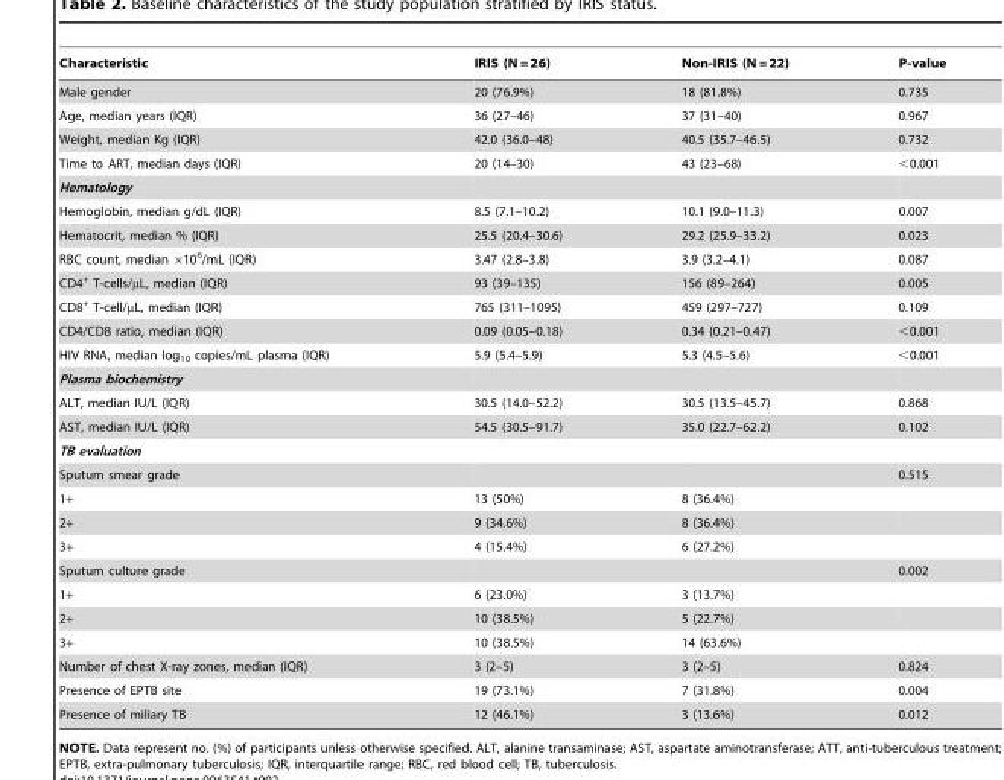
<table><thead><tr><td>Characteristic</td><td>IRIS (N = 26)</td><td>Non-IRIS (N = 22)</td><td>P-value</td></tr></thead><tbody><tr><td>Male gender</td><td>20 (76.9%)</td><td>18 (81.8%)</td><td>0.735</td></tr><tr><td>Age, median years (IQR)</td><td>36 (27–46)</td><td>37 (31–40)</td><td>0.967</td></tr><tr><td>Weight, median Kg (IQR)</td><td>42.0 (36.0–48)</td><td>40.5 (35.7–46.5)</td><td>0.732</td></tr><tr><td>Time to ART, median days (IQR)</td><td>20 (14–30)</td><td>43 (23–68)</td><td>&lt;0.001</td></tr><tr><td colspan="4">Hematology</td></tr><tr><td>Hemoglobin, median g/dL (IQR)</td><td>8.5 (7.1–10.2)</td><td>10.1 (9.0–11.3)</td><td>0.007</td></tr><tr><td>Hematocrit, median % (IQR)</td><td>25.5 (20.4–30.6)</td><td>29.2 (25.9–33.2)</td><td>0.023</td></tr><tr><td>RBC count, median ×10<sup>6</sup>/mL (IQR)</td><td>3.47 (2.8–3.8)</td><td>3.9 (3.2–4.1)</td><td>0.087</td></tr><tr><td>CD4<sup>+</sup> T-cells/µL, median (IQR)</td><td>93 (39–135)</td><td>156 (89–264)</td><td>0.005</td></tr><tr><td>CD8<sup>+</sup> T-cell/µL, median (IQR)</td><td>765 (311–1095)</td><td>459 (297–727)</td><td>0.109</td></tr><tr><td>CD4/CD8 ratio, median (IQR)</td><td>0.09 (0.05–0.18)</td><td>0.34 (0.21–0.47)</td><td>&lt;0.001</td></tr><tr><td>HIV RNA, median log<sub>10</sub> copies/mL plasma (IQR)</td><td>5.9 (5.4–5.9)</td><td>5.3 (4.5–5.6)</td><td>&lt;0.001</td></tr><tr><td colspan="4">Plasma biochemistry</td></tr><tr><td>ALT, median IU/L (IQR)</td><td>30.5 (14.0–52.2)</td><td>30.5 (13.5–45.7)</td><td>0.868</td></tr><tr><td>AST, median IU/L (IQR)</td><td>54.5 (30.5–91.7)</td><td>35.0 (22.7–62.2)</td><td>0.102</td></tr><tr><td colspan="4">TB evaluation</td></tr><tr><td>Sputum smear grade</td><td></td><td></td><td>0.515</td></tr><tr><td>1+</td><td>13 (50%)</td><td>8 (36.4%)</td><td></td></tr><tr><td>2+</td><td>9 (34.6%)</td><td>8 (36.4%)</td><td></td></tr><tr><td>3+</td><td>4 (15.4%)</td><td>6 (27.2%)</td><td></td></tr><tr><td>Sputum culture grade</td><td></td><td></td><td>0.002</td></tr><tr><td>1+</td><td>6 (23.0%)</td><td>3 (13.7%)</td><td></td></tr><tr><td>2+</td><td>10 (38.5%)</td><td>5 (22.7%)</td><td></td></tr><tr><td>3+</td><td>10 (38.5%)</td><td>14 (63.6%)</td><td></td></tr><tr><td>Number of chest X-ray zones, median (IQR)</td><td>3 (2–5)</td><td>3 (2–5)</td><td>0.824</td></tr><tr><td>Presence of EPTB site</td><td>19 (73.1%)</td><td>7 (31.8%)</td><td>0.004</td></tr><tr><td>Presence of miliary TB</td><td>12 (46.1%)</td><td>3 (13.6%)</td><td>0.012</td></tr></tbody></table>